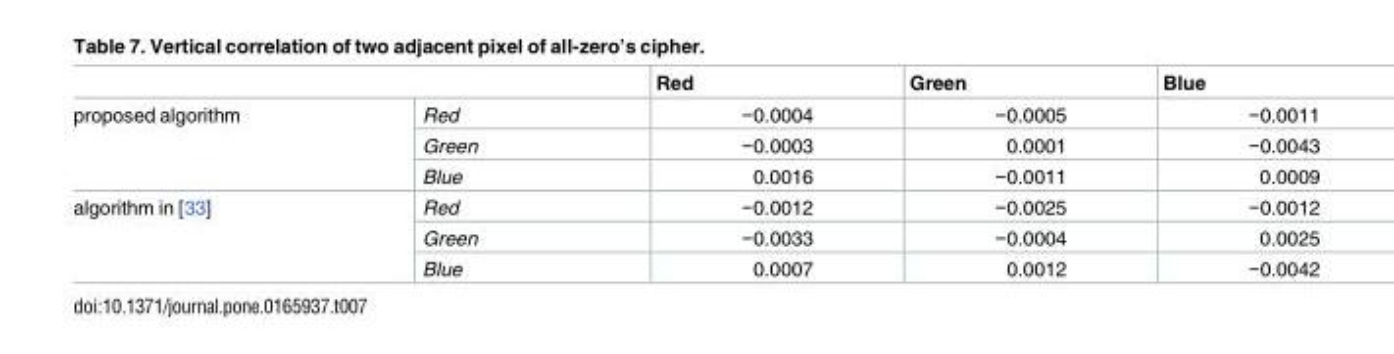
<table><thead><tr><td></td><td></td><td>Red</td><td>Green</td><td>Blue</td></tr></thead><tbody><tr><td rowspan="3">proposed algorithm</td><td>Red</td><td>−0.0004</td><td>−0.0005</td><td>−0.0011</td></tr><tr><td>Green</td><td>−0.0003</td><td>0.0001</td><td>−0.0043</td></tr><tr><td>Blue</td><td>0.0016</td><td>−0.0011</td><td>0.0009</td></tr><tr><td rowspan="3">algorithm in [33]</td><td>Red</td><td>−0.0012</td><td>−0.0025</td><td>−0.0012</td></tr><tr><td>Green</td><td>−0.0033</td><td>−0.0004</td><td>0.0025</td></tr><tr><td>Blue</td><td>0.0007</td><td>0.0012</td><td>−0.0042</td></tr></tbody></table>